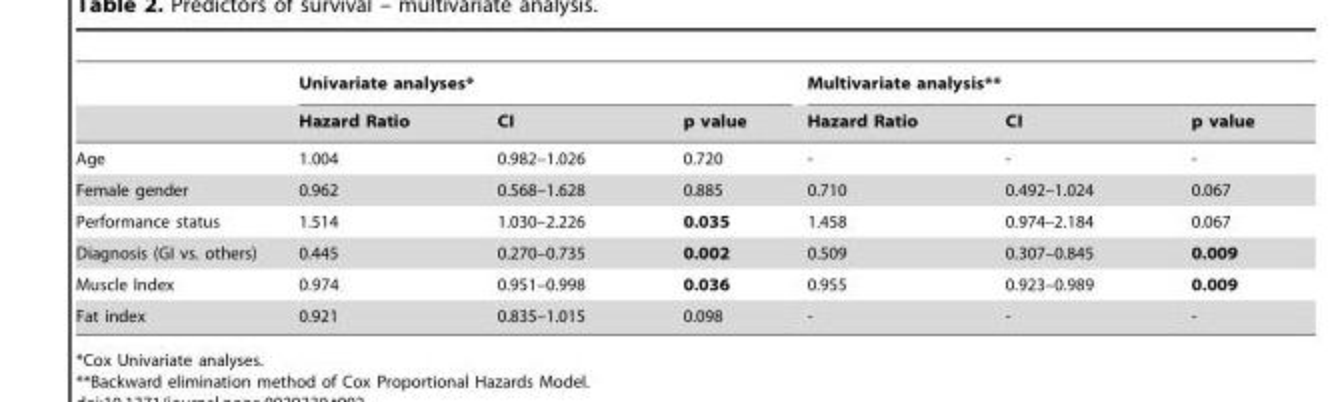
<table><thead><tr><td rowspan="2"></td><td colspan="3">Univariate analyses*</td><td colspan="3">Multivariate analysis**</td></tr><tr><td>Hazard Ratio</td><td>CI</td><td>p value</td><td>Hazard Ratio</td><td>CI</td><td>p value</td></tr></thead><tbody><tr><td>Age</td><td>1.004</td><td>0.982–1.026</td><td>0.720</td><td>-</td><td>-</td><td>-</td></tr><tr><td>Female gender</td><td>0.962</td><td>0.568–1.628</td><td>0.885</td><td>0.710</td><td>0.492–1.024</td><td>0.067</td></tr><tr><td>Performance status</td><td>1.514</td><td>1.030–2.226</td><td>0.035</td><td>1.458</td><td>0.974–2.184</td><td>0.067</td></tr><tr><td>Diagnosis (GI vs. others)</td><td>0.445</td><td>0.270–0.735</td><td>0.002</td><td>0.509</td><td>0.307–0.845</td><td>0.009</td></tr><tr><td>Muscle Index</td><td>0.974</td><td>0.951–0.998</td><td>0.036</td><td>0.955</td><td>0.923–0.989</td><td>0.009</td></tr><tr><td>Fat index</td><td>0.921</td><td>0.835–1.015</td><td>0.098</td><td>-</td><td>-</td><td>-</td></tr></tbody></table>